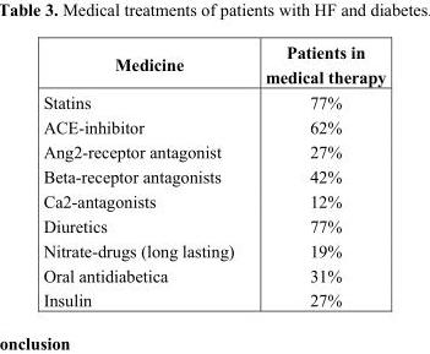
<table><thead><tr><td>Medicine</td><td>Patients in medical therapy</td></tr></thead><tbody><tr><td>Statins</td><td>77%</td></tr><tr><td>ACE-inhibitor</td><td>62%</td></tr><tr><td>Ang2-receptor antagonist</td><td>27%</td></tr><tr><td>Beta-receptor antagonists</td><td>42%</td></tr><tr><td>Ca2-antagonists</td><td>12%</td></tr><tr><td>Diuretics</td><td>77%</td></tr><tr><td>Nitrate-drugs (long lasting)</td><td>19%</td></tr><tr><td>Oral antidiabetica</td><td>31%</td></tr><tr><td>Insulin</td><td>27%</td></tr></tbody></table>